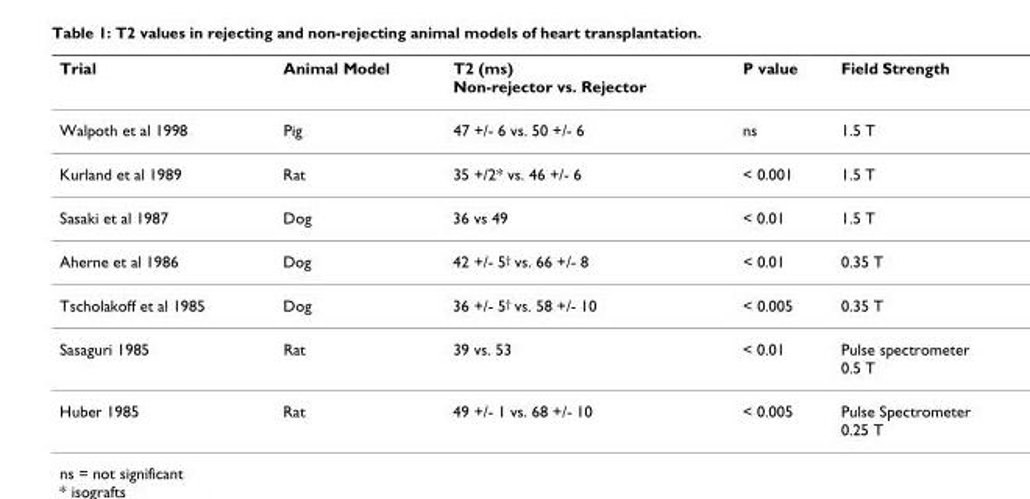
<table><thead><tr><td>Trial</td><td>Animal Model</td><td>T2 (ms) Non-rejector vs. Rejector</td><td>P value</td><td>Field Strength</td></tr></thead><tbody><tr><td>Walpoth et al 1998</td><td>Pig</td><td>47 +/- 6 vs. 50 +/- 6</td><td>ns</td><td>1.5 T</td></tr><tr><td>Kurland et al 1989</td><td>Rat</td><td>35 +/2* vs. 46 +/- 6</td><td>&lt; 0.001</td><td>1.5 T</td></tr><tr><td>Sasaki et al 1987</td><td>Dog</td><td>36 vs 49</td><td>&lt; 0.01</td><td>1.5 T</td></tr><tr><td>Aherne et al 1986</td><td>Dog</td><td>42 +/- 5<sup>†</sup> vs. 66 +/- 8</td><td>&lt; 0.01</td><td>0.35 T</td></tr><tr><td>Tscholakoff et al 1985</td><td>Dog</td><td>36 +/- 5<sup>†</sup> vs. 58 +/- 10</td><td>&lt; 0.005</td><td>0.35 T</td></tr><tr><td>Sasaguri 1985</td><td>Rat</td><td>39 vs. 53</td><td>&lt; 0.01</td><td>Pulse spectrometer 0.5 T</td></tr><tr><td>Huber 1985</td><td>Rat</td><td>49 +/- 1 vs. 68 +/- 10</td><td>&lt; 0.005</td><td>Pulse Spectrometer 0.25 T</td></tr></tbody></table>